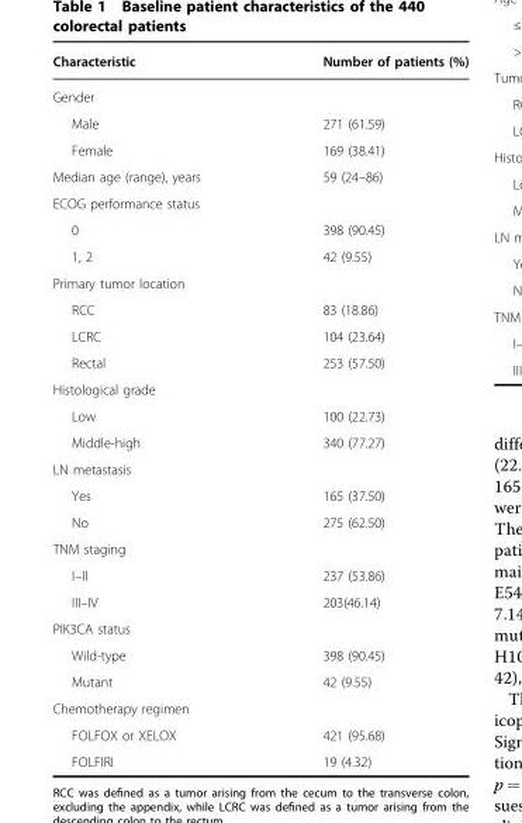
<table><thead><tr><td>Characteristic</td><td>Number of patients (%)</td></tr></thead><tbody><tr><td colspan="2">Gender</td></tr><tr><td>Male</td><td>271 (61.59)</td></tr><tr><td>Female</td><td>169 (38.41)</td></tr><tr><td>Median age (range), years</td><td>59 (24–86)</td></tr><tr><td colspan="2">ECOG performance status</td></tr><tr><td>0</td><td>398 (90.45)</td></tr><tr><td>1, 2</td><td>42 (9.55)</td></tr><tr><td colspan="2">Primary tumor location</td></tr><tr><td>RCC</td><td>83 (18.86)</td></tr><tr><td>LCRC</td><td>104 (23.64)</td></tr><tr><td>Rectal</td><td>253 (57.50)</td></tr><tr><td colspan="2">Histological grade</td></tr><tr><td>Low</td><td>100 (22.73)</td></tr><tr><td>Middle-high</td><td>340 (77.27)</td></tr><tr><td colspan="2">LN metastasis</td></tr><tr><td>Yes</td><td>165 (37.50)</td></tr><tr><td>No</td><td>275 (62.50)</td></tr><tr><td colspan="2">TNM staging</td></tr><tr><td>I–II</td><td>237 (53.86)</td></tr><tr><td>III–IV</td><td>203(46.14)</td></tr><tr><td colspan="2">PIK3CA status</td></tr><tr><td>Wild-type</td><td>398 (90.45)</td></tr><tr><td>Mutant</td><td>42 (9.55)</td></tr><tr><td colspan="2">Chemotherapy regimen</td></tr><tr><td>FOLFOX or XELOX</td><td>421 (95.68)</td></tr><tr><td>FOLFIRI</td><td>19 (4.32)</td></tr></tbody></table>